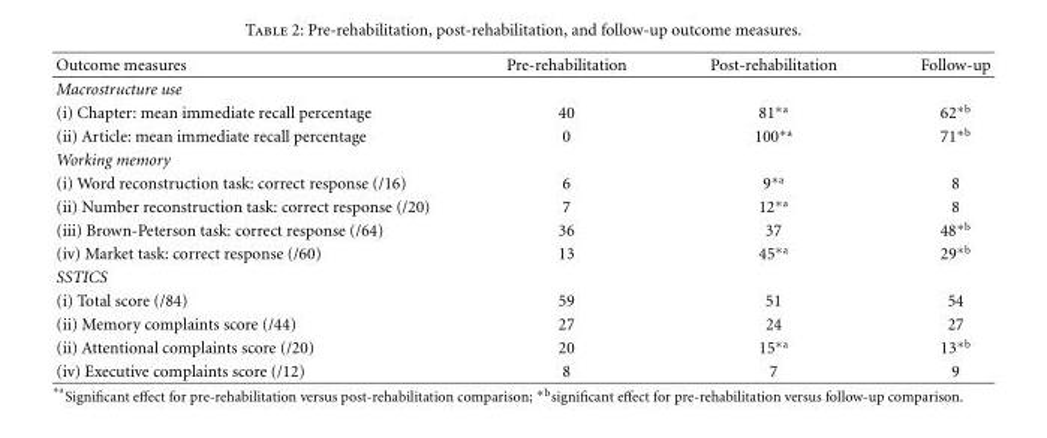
<table><thead><tr><td>Outcome measures</td><td>Pre-rehabilitation</td><td>Post-rehabilitation</td><td>Follow-up</td></tr></thead><tbody><tr><td colspan="4">Macrostructure use</td></tr><tr><td>(i) Chapter: mean immediate recall percentage</td><td>40</td><td>81<sup>∗a</sup></td><td>62<sup>∗b</sup></td></tr><tr><td>(ii) Article: mean immediate recall percentage</td><td>0</td><td>100<sup>∗a</sup></td><td>71<sup>∗b</sup></td></tr><tr><td colspan="4">Working memory</td></tr><tr><td>(i) Word reconstruction task: correct response (/16)</td><td>6</td><td>9<sup>∗a</sup></td><td>8</td></tr><tr><td>(ii) Number reconstruction task: correct response (/20)</td><td>7</td><td>12<sup>∗a</sup></td><td>8</td></tr><tr><td>(iii) Brown-Peterson task: correct response (/64)</td><td>36</td><td>37</td><td>48<sup>∗b</sup></td></tr><tr><td>(iv) Market task: correct response (/60)</td><td>13</td><td>45<sup>∗a</sup></td><td>29<sup>∗b</sup></td></tr><tr><td colspan="4">SSTICS</td></tr><tr><td>(i) Total score (/84)</td><td>59</td><td>51</td><td>54</td></tr><tr><td>(ii) Memory complaints score (/44)</td><td>27</td><td>24</td><td>27</td></tr><tr><td>(ii) Attentional complaints score (/20)</td><td>20</td><td>15<sup>∗a</sup></td><td>13<sup>∗b</sup></td></tr><tr><td>(iv) Executive complaints score (/12)</td><td>8</td><td>7</td><td>9</td></tr></tbody></table>